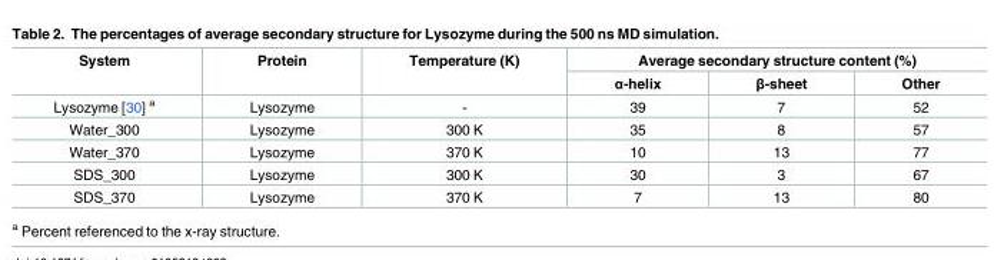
<table><thead><tr><td rowspan="2">System</td><td rowspan="2">Protein</td><td rowspan="2">Temperature (K)</td><td colspan="3">Average secondary structure content (%)</td></tr><tr><td>α-helix</td><td>β-sheet</td><td>Other</td></tr></thead><tbody><tr><td>Lysozyme [30] <sup>a</sup></td><td>Lysozyme</td><td>-</td><td>39</td><td>7</td><td>52</td></tr><tr><td>Water_300</td><td>Lysozyme</td><td>300 K</td><td>35</td><td>8</td><td>57</td></tr><tr><td>Water_370</td><td>Lysozyme</td><td>370 K</td><td>10</td><td>13</td><td>77</td></tr><tr><td>SDS_300</td><td>Lysozyme</td><td>300 K</td><td>30</td><td>3</td><td>67</td></tr><tr><td>SDS_370</td><td>Lysozyme</td><td>370 K</td><td>7</td><td>13</td><td>80</td></tr></tbody></table>